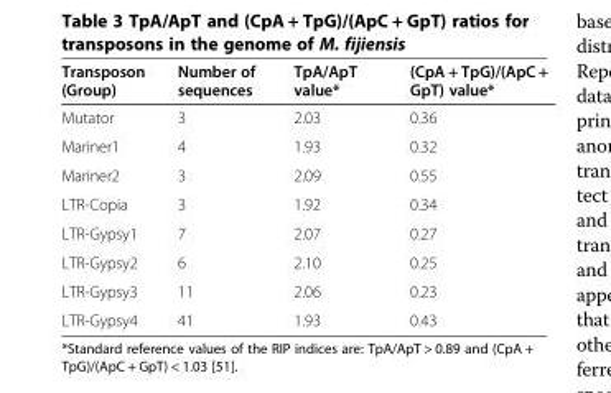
<table><thead><tr><td>Transposon (Group)</td><td>Number of sequences</td><td>TpA/ApT value*</td><td>(CpA + TpG)/(ApC + GpT) value*</td></tr></thead><tbody><tr><td>Mutator</td><td>3</td><td>2.03</td><td>0.36</td></tr><tr><td>Mariner1</td><td>4</td><td>1.93</td><td>0.32</td></tr><tr><td>Mariner2</td><td>3</td><td>2.09</td><td>0.55</td></tr><tr><td>LTR-Copia</td><td>3</td><td>1.92</td><td>0.34</td></tr><tr><td>LTR-Gypsy1</td><td>7</td><td>2.07</td><td>0.27</td></tr><tr><td>LTR-Gypsy2</td><td>6</td><td>2.10</td><td>0.25</td></tr><tr><td>LTR-Gypsy3</td><td>11</td><td>2.06</td><td>0.23</td></tr><tr><td>LTR-Gypsy4</td><td>41</td><td>1.93</td><td>0.43</td></tr></tbody></table>